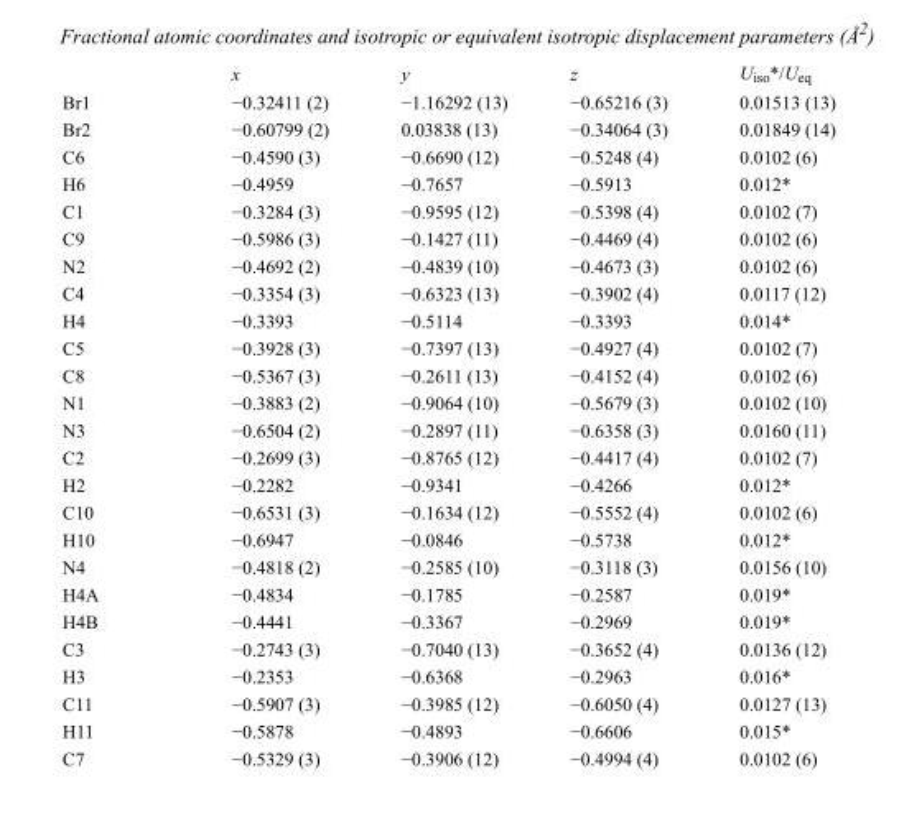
<table><thead><tr><td></td><td>x</td><td>y</td><td>z</td><td>U<sub>iso</sub>*/U<sub>eq</sub></td></tr></thead><tbody><tr><td>Br1</td><td>−0.32411 (2)</td><td>−1.16292 (13)</td><td>−0.65216 (3)</td><td>0.01513 (13)</td></tr><tr><td>Br2</td><td>−0.60799 (2)</td><td>0.03838 (13)</td><td>−0.34064 (3)</td><td>0.01849 (14)</td></tr><tr><td>C6</td><td>−0.4590 (3)</td><td>−0.6690 (12)</td><td>−0.5248 (4)</td><td>0.0102 (6)</td></tr><tr><td>H6</td><td>−0.4959</td><td>−0.7657</td><td>−0.5913</td><td>0.012*</td></tr><tr><td>C1</td><td>−0.3284 (3)</td><td>−0.9595 (12)</td><td>−0.5398 (4)</td><td>0.0102 (7)</td></tr><tr><td>C9</td><td>−0.5986 (3)</td><td>−0.1427 (11)</td><td>−0.4469 (4)</td><td>0.0102 (6)</td></tr><tr><td>N2</td><td>−0.4692 (2)</td><td>−0.4839 (10)</td><td>−0.4673 (3)</td><td>0.0102 (6)</td></tr><tr><td>C4</td><td>−0.3354 (3)</td><td>−0.6323 (13)</td><td>−0.3902 (4)</td><td>0.0117 (12)</td></tr><tr><td>H4</td><td>−0.3393</td><td>−0.5114</td><td>−0.3393</td><td>0.014*</td></tr><tr><td>C5</td><td>−0.3928 (3)</td><td>−0.7397 (13)</td><td>−0.4927 (4)</td><td>0.0102 (7)</td></tr><tr><td>C8</td><td>−0.5367 (3)</td><td>−0.2611 (13)</td><td>−0.4152 (4)</td><td>0.0102 (6)</td></tr><tr><td>N1</td><td>−0.3883 (2)</td><td>−0.9064 (10)</td><td>−0.5679 (3)</td><td>0.0102 (10)</td></tr><tr><td>N3</td><td>−0.6504 (2)</td><td>−0.2897 (11)</td><td>−0.6358 (3)</td><td>0.0160 (11)</td></tr><tr><td>C2</td><td>−0.2699 (3)</td><td>−0.8765 (12)</td><td>−0.4417 (4)</td><td>0.0102 (7)</td></tr><tr><td>H2</td><td>−0.2282</td><td>−0.9341</td><td>−0.4266</td><td>0.012*</td></tr><tr><td>C10</td><td>−0.6531 (3)</td><td>−0.1634 (12)</td><td>−0.5552 (4)</td><td>0.0102 (6)</td></tr><tr><td>H10</td><td>−0.6947</td><td>−0.0846</td><td>−0.5738</td><td>0.012*</td></tr><tr><td>N4</td><td>−0.4818 (2)</td><td>−0.2585 (10)</td><td>−0.3118 (3)</td><td>0.0156 (10)</td></tr><tr><td>H4A</td><td>−0.4834</td><td>−0.1785</td><td>−0.2587</td><td>0.019*</td></tr><tr><td>H4B</td><td>−0.4441</td><td>−0.3367</td><td>−0.2969</td><td>0.019*</td></tr><tr><td>C3</td><td>−0.2743 (3)</td><td>−0.7040 (13)</td><td>−0.3652 (4)</td><td>0.0136 (12)</td></tr><tr><td>H3</td><td>−0.2353</td><td>−0.6368</td><td>−0.2963</td><td>0.016*</td></tr><tr><td>C11</td><td>−0.5907 (3)</td><td>−0.3985 (12)</td><td>−0.6050 (4)</td><td>0.0127 (13)</td></tr><tr><td>H11</td><td>−0.5878</td><td>−0.4893</td><td>−0.6606</td><td>0.015*</td></tr><tr><td>C7</td><td>−0.5329 (3)</td><td>−0.3906 (12)</td><td>−0.4994 (4)</td><td>0.0102 (6)</td></tr></tbody></table>